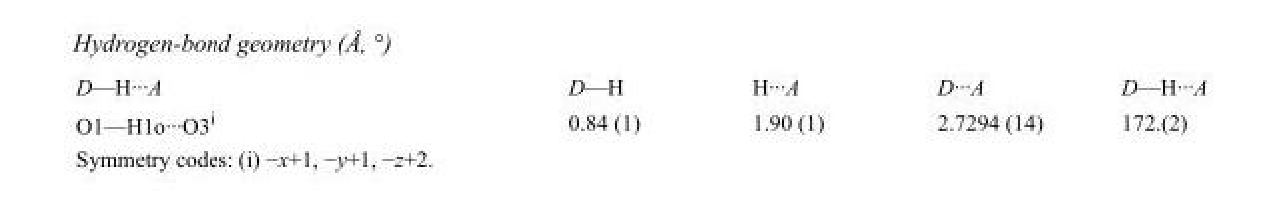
<table><tbody><tr><td>D—H···A</td><td>D—H</td><td>H···A</td><td>D···A</td><td>D—H···A</td></tr><tr><td>O1—H1o···O3<sup>i</sup></td><td>0.84 (1)</td><td>1.90 (1)</td><td>2.7294 (14)</td><td>172.(2)</td></tr></tbody></table>